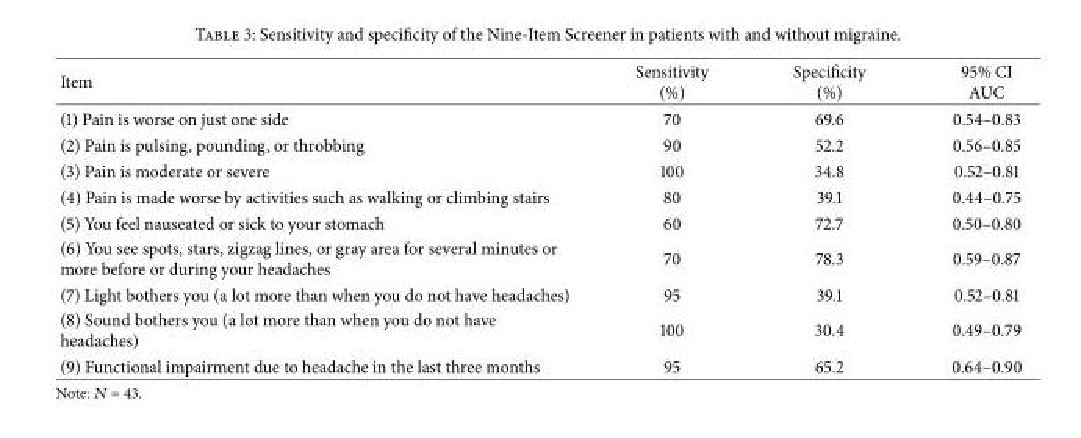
<table><thead><tr><td>Item</td><td>Sensitivity (%)</td><td>Specificity (%)</td><td>95% CI AUC</td></tr></thead><tbody><tr><td>(1) Pain is worse on just one side</td><td>70</td><td>69.6</td><td>0.54–0.83</td></tr><tr><td>(2) Pain is pulsing, pounding, or throbbing</td><td>90</td><td>52.2</td><td>0.56–0.85</td></tr><tr><td>(3) Pain is moderate or severe</td><td>100</td><td>34.8</td><td>0.52–0.81</td></tr><tr><td>(4) Pain is made worse by activities such as walking or climbing stairs</td><td>80</td><td>39.1</td><td>0.44–0.75</td></tr><tr><td>(5) You feel nauseated or sick to your stomach</td><td>60</td><td>72.7</td><td>0.50–0.80</td></tr><tr><td>(6) You see spots, stars, zigzag lines, or gray area for several minutes or more before or during your headaches</td><td>70</td><td>78.3</td><td>0.59–0.87</td></tr><tr><td>(7) Light bothers you (a lot more than when you do not have headaches)</td><td>95</td><td>39.1</td><td>0.52–0.81</td></tr><tr><td>(8) Sound bothers you (a lot more than when you do not have headaches)</td><td>100</td><td>30.4</td><td>0.49–0.79</td></tr><tr><td>(9) Functional impairment due to headache in the last three months</td><td>95</td><td>65.2</td><td>0.64–0.90</td></tr></tbody></table>